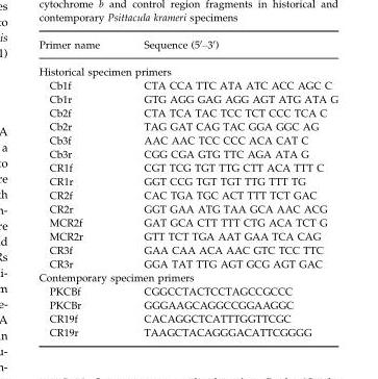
<table><thead><tr><td>Primer name</td><td>Sequence (5′–3′)</td></tr></thead><tbody><tr><td colspan="2">Historical specimen primers</td></tr><tr><td>Cb1f</td><td>CTA CCA TTC ATA ATC ACC AGC C</td></tr><tr><td>Cb1r</td><td>GTG AGG GAG AGG AGT ATG ATA G</td></tr><tr><td>Cb2f</td><td>CTA TCA TAC TCC TCT CCC TCA C</td></tr><tr><td>Cb2r</td><td>TAG GAT CAG TAC GGA GGC AG</td></tr><tr><td>Cb3f</td><td>AAC AAC TCC CCC ACA CAT C</td></tr><tr><td>Cb3r</td><td>CGG CGA GTG TTC AGA ATA G</td></tr><tr><td>CR1f</td><td>CGT TCG TGT TTG CTT ACA TTT C</td></tr><tr><td>CR1r</td><td>GGT CCG TGT TGT TTG TTT TG</td></tr><tr><td>CR2f</td><td>CAC TGA TGC ACT TTT TCT GAC</td></tr><tr><td>CR2r</td><td>GGT GAA ATG TAA GCA AAC ACG</td></tr><tr><td>MCR2f</td><td>GAT GCA CTT TTT CTG ACA TCT G</td></tr><tr><td>MCR2r</td><td>GTT TCT TGA AAT GAA TCA CAG</td></tr><tr><td>CR3f</td><td>GAA CAA ACA AAC GTC TCC TTC</td></tr><tr><td>CR3r</td><td>GGA TAT TTG AGT GCG AGT GAC</td></tr><tr><td colspan="2">Contemporary specimen primers</td></tr><tr><td>PKCBf</td><td>CGGCCTACTCCTAGCCGCCC</td></tr><tr><td>PKCBr</td><td>GGGAAGCAGGCCGGAAGGC</td></tr><tr><td>CR19f</td><td>CACAGGCTCATTTGGTTCGC</td></tr><tr><td>CR19r</td><td>TAAGCTACAGGGACATTCGGGG</td></tr></tbody></table>